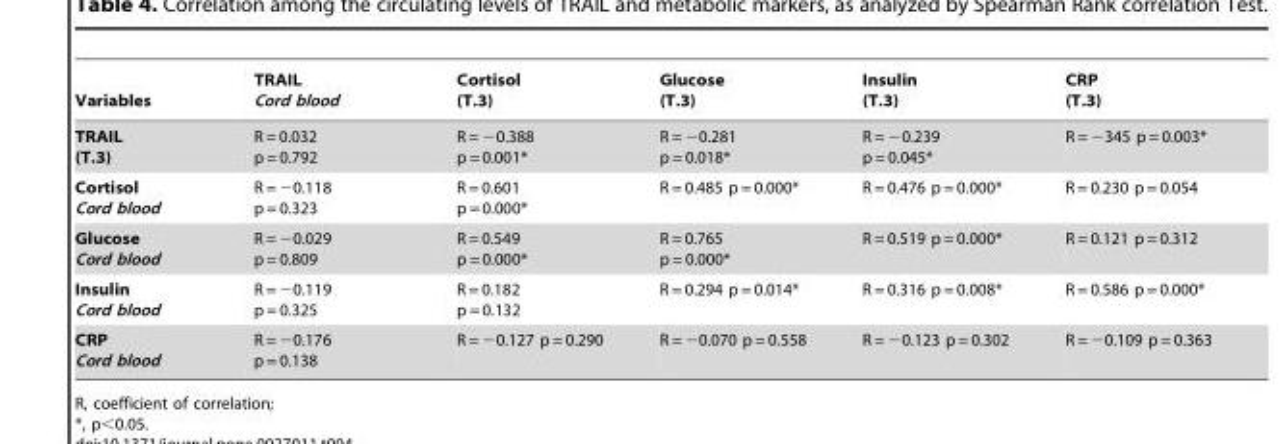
<table><thead><tr><td>Variables</td><td>TRAIL Cord blood</td><td>Cortisol (T.3)</td><td>Glucose (T.3)</td><td>Insulin (T.3)</td><td>CRP (T.3)</td></tr></thead><tbody><tr><td>TRAIL (T.3)</td><td>R = 0.032 p = 0.792</td><td>R = −0.388 p = 0.001*</td><td>R = −0.281 p = 0.018*</td><td>R = −0.239 p = 0.045*</td><td>R = −345 p = 0.003*</td></tr><tr><td>Cortisol Cord blood</td><td>R = −0.118 p = 0.323</td><td>R = 0.601 p = 0.000*</td><td>R = 0.485 p = 0.000*</td><td>R = 0.476 p = 0.000*</td><td>R = 0.230 p = 0.054</td></tr><tr><td>Glucose Cord blood</td><td>R = −0.029 p = 0.809</td><td>R = 0.549 p = 0.000*</td><td>R = 0.765 p = 0.000*</td><td>R = 0.519 p = 0.000*</td><td>R = 0.121 p = 0.312</td></tr><tr><td>Insulin Cord blood</td><td>R = −0.119 p = 0.325</td><td>R = 0.182 p = 0.132</td><td>R = 0.294 p = 0.014*</td><td>R = 0.316 p = 0.008*</td><td>R = 0.586 p = 0.000*</td></tr><tr><td>CRP Cord blood</td><td>R = −0.176 p = 0.138</td><td>R = −0.127 p = 0.290</td><td>R = −0.070 p = 0.558</td><td>R = −0.123 p = 0.302</td><td>R = −0.109 p = 0.363</td></tr></tbody></table>